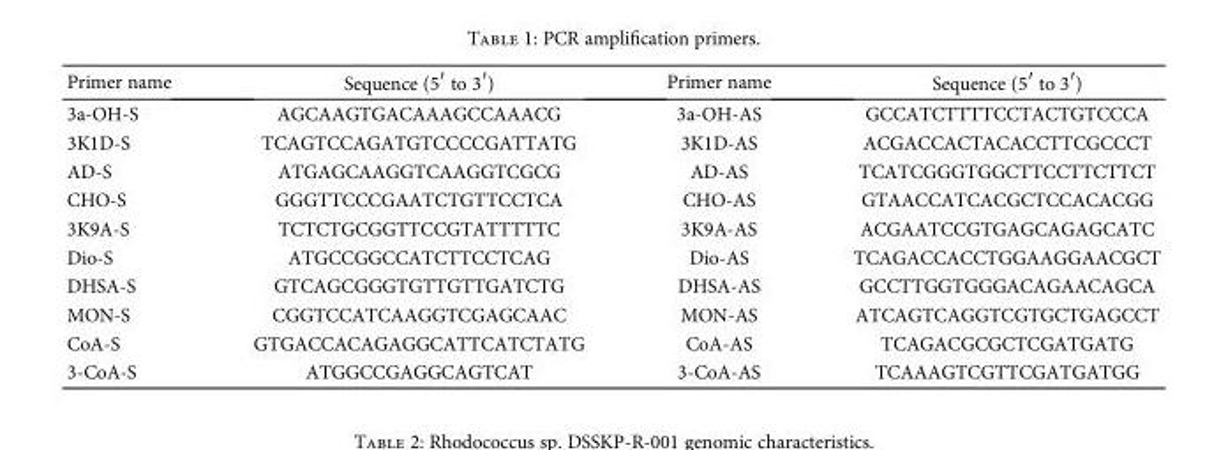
<table><thead><tr><td>Primer name</td><td>Sequence (5′ to 3′)</td><td>Primer name</td><td>Sequence (5′ to 3′)</td></tr></thead><tbody><tr><td>3a-OH-S</td><td>AGCAAGTGACAAAGCCAAACG</td><td>3a-OH-AS</td><td>GCCATCTTTTCCTACTGTCCCA</td></tr><tr><td>3K1D-S</td><td>TCAGTCCAGATGTCCCCGATTATG</td><td>3K1D-AS</td><td>ACGACCACTACACCTTCGCCCT</td></tr><tr><td>AD-S</td><td>ATGAGCAAGGTCAAGGTCGCG</td><td>AD-AS</td><td>TCATCGGGTGGCTTCCTTCTTCT</td></tr><tr><td>CHO-S</td><td>GGGTTCCCGAATCTGTTCCTCA</td><td>CHO-AS</td><td>GTAACCATCACGCTCCACACGG</td></tr><tr><td>3K9A-S</td><td>TCTCTGCGGTTCCGTATTTTTC</td><td>3K9A-AS</td><td>ACGAATCCGTGAGCAGAGCATC</td></tr><tr><td>Dio-S</td><td>ATGCCGGCCATCTTCCTCAG</td><td>Dio-AS</td><td>TCAGACCACCTGGAAGGAACGCT</td></tr><tr><td>DHSA-S</td><td>GTCAGCGGGTGTTGTTGATCTG</td><td>DHSA-AS</td><td>GCCTTGGTGGGACAGAACAGCA</td></tr><tr><td>MON-S</td><td>CGGTCCATCAAGGTCGAGCAAC</td><td>MON-AS</td><td>ATCAGTCAGGTCGTGCTGAGCCT</td></tr><tr><td>CoA-S</td><td>GTGACCACAGAGGCATTCATCTATG</td><td>CoA-AS</td><td>TCAGACGCGCTCGATGATG</td></tr><tr><td>3-CoA-S</td><td>ATGGCCGAGGCAGTCAT</td><td>3-CoA-AS</td><td>TCAAAGTCGTTCGATGATGG</td></tr></tbody></table>